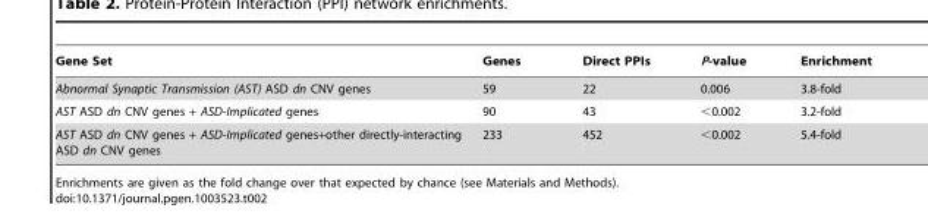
<table><thead><tr><td>Gene Set</td><td>Genes</td><td>Direct PPIs</td><td>P-value</td><td>Enrichment</td></tr></thead><tbody><tr><td>Abnormal Synaptic Transmission (AST) ASD dn CNV genes</td><td>59</td><td>22</td><td>0.006</td><td>3.8-fold</td></tr><tr><td>AST ASD dn CNV genes + ASD-Implicated genes</td><td>90</td><td>43</td><td>&lt;0.002</td><td>3.2-fold</td></tr><tr><td>AST ASD dn CNV genes + ASD-Implicated genes+other directly-interacting ASD dn CNV genes</td><td>233</td><td>452</td><td>&lt;0.002</td><td>5.4-fold</td></tr></tbody></table>